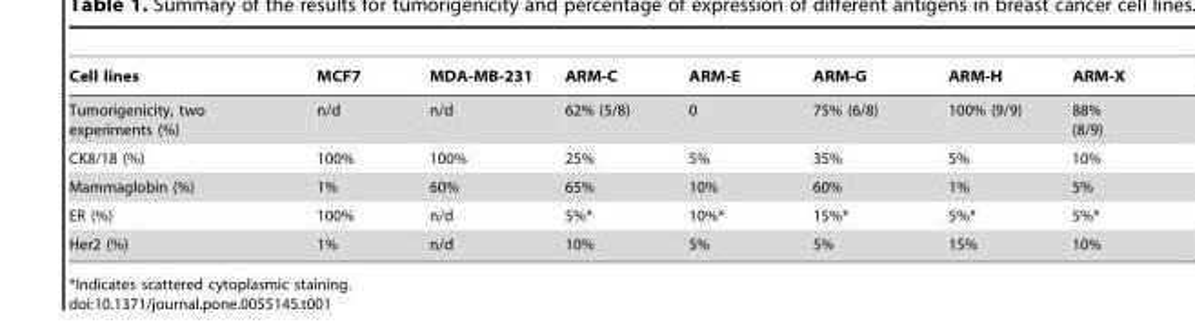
<table><thead><tr><td>Cell lines</td><td>MCF7</td><td>MDA-MB-231</td><td>ARM-C</td><td>ARM-E</td><td>ARM-G</td><td>ARM-H</td><td>ARM-X</td></tr></thead><tbody><tr><td>Tumorigenicity, two experiments (%)</td><td>n/d</td><td>n/d</td><td>62% (5/8)</td><td>0</td><td>75% (6/8)</td><td>100% (9/9)</td><td>88% (8/9)</td></tr><tr><td>CK8/18 (%)</td><td>100%</td><td>100%</td><td>25%</td><td>5%</td><td>35%</td><td>5%</td><td>10%</td></tr><tr><td>Mammaglobin (%)</td><td>1%</td><td>60%</td><td>65%</td><td>10%</td><td>60%</td><td>1%</td><td>5%</td></tr><tr><td>ER (%)</td><td>100%</td><td>n/d</td><td>5%*</td><td>10%*</td><td>15%*</td><td>5%*</td><td>5%*</td></tr><tr><td>Her2 (%)</td><td>1%</td><td>n/d</td><td>10%</td><td>5%</td><td>5%</td><td>15%</td><td>10%</td></tr></tbody></table>